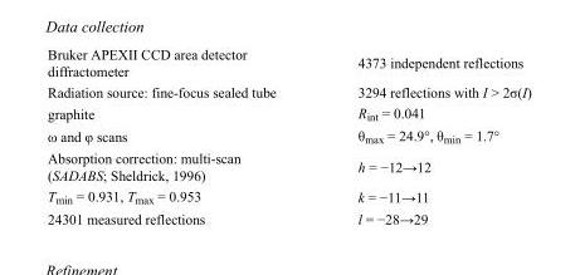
<table><tbody><tr><td>Bruker APEXII CCD area detector diffractometer</td><td>4373 independent reflections</td></tr><tr><td>Radiation source: fine-focus sealed tube</td><td>3294 reflections with I &gt; 2σ(I)</td></tr><tr><td>graphite</td><td>R<sub>int</sub> = 0.041</td></tr><tr><td>ω and φ scans</td><td>θ<sub>max</sub> = 24.9°, θ<sub>min</sub> = 1.7°</td></tr><tr><td>Absorption correction: multi-scan (SADABS; Sheldrick, 1996)</td><td>h = −12→12</td></tr><tr><td>T<sub>min</sub> = 0.931, T<sub>max</sub> = 0.953</td><td>k = −11→11</td></tr><tr><td>24301 measured reflections</td><td>l = −28→29</td></tr></tbody></table>